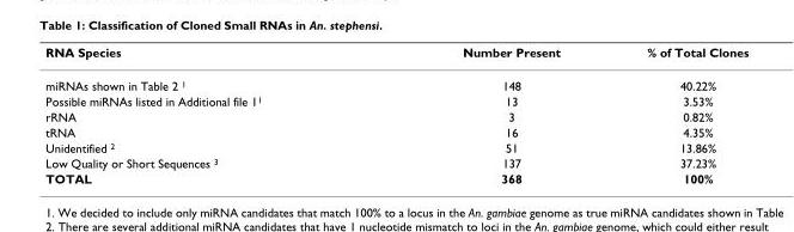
<table><thead><tr><td>RNA Species</td><td>Number Present</td><td>% of Total Clones</td></tr></thead><tbody><tr><td>miRNAs shown in Table 2 <sup>1</sup></td><td>148</td><td>40.22%</td></tr><tr><td>Possible miRNAs listed in Additional file 1<sup>1</sup></td><td>13</td><td>3.53%</td></tr><tr><td>rRNA</td><td>3</td><td>0.82%</td></tr><tr><td>tRNA</td><td>16</td><td>4.35%</td></tr><tr><td>Unidentified <sup>2</sup></td><td>51</td><td>13.86%</td></tr><tr><td>Low Quality or Short Sequences <sup>3</sup></td><td>137</td><td>37.23%</td></tr><tr><td>TOTAL</td><td>368</td><td>100%</td></tr></tbody></table>